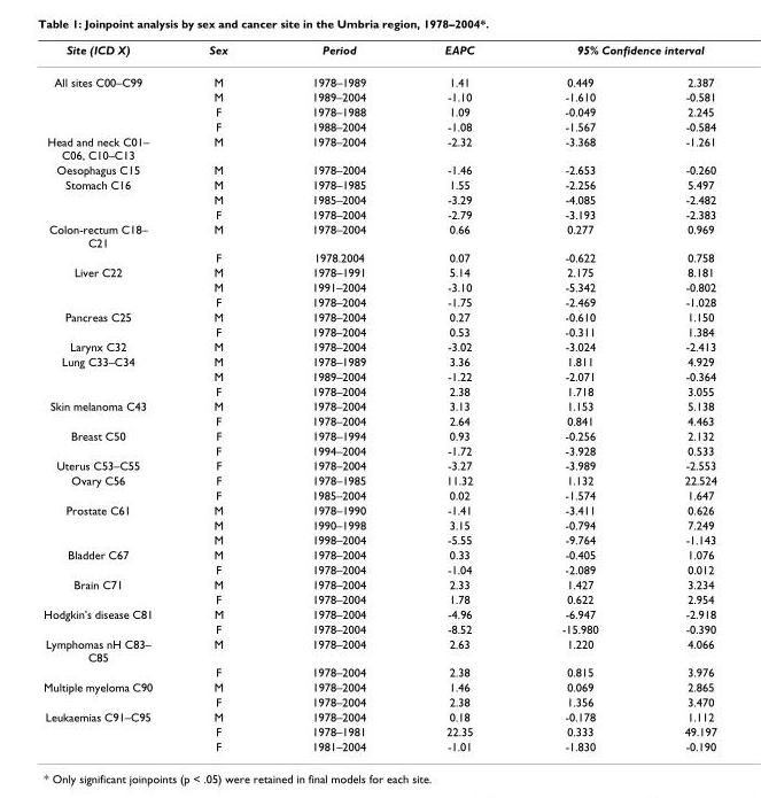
<table><thead><tr><td rowspan="2">Site (ICD X) All sites C00–C99</td><td rowspan="2">Sex M</td><td rowspan="2">Period 1978–1989</td><td rowspan="2">EAPC 1.41</td><td colspan="2">95% Confidence interval</td></tr><tr><td>0.449</td><td>2.387</td></tr></thead><tbody><tr><td></td><td>M</td><td>1989–2004</td><td>-1.10</td><td>-1.610</td><td>-0.581</td></tr><tr><td></td><td>F</td><td>1978–1988</td><td>1.09</td><td>-0.049</td><td>2.245</td></tr><tr><td></td><td>F</td><td>1988–2004</td><td>-1.08</td><td>-1.567</td><td>-0.584</td></tr><tr><td>Head and neck C01– C06, C10–C13</td><td>M</td><td>1978–2004</td><td>-2.32</td><td>-3.368</td><td>-1.261</td></tr><tr><td>Oesophagus C15</td><td>M</td><td>1978–2004</td><td>-1.46</td><td>-2.653</td><td>-0.260</td></tr><tr><td rowspan="3">Stomach C16</td><td>M</td><td>1978–1985</td><td>1.55</td><td>-2.256</td><td>5.497</td></tr><tr><td>M</td><td>1985–2004</td><td>-3.29</td><td>-4.085</td><td>-2.482</td></tr><tr><td>F</td><td>1978–2004</td><td>-2.79</td><td>-3.193</td><td>-2.383</td></tr><tr><td rowspan="2">Colon-rectum C18– C21</td><td>M</td><td>1978–2004</td><td>0.66</td><td>0.277</td><td>0.969</td></tr><tr><td>F</td><td>1978.2004</td><td>0.07</td><td>-0.622</td><td>0.758</td></tr><tr><td rowspan="3">Liver C22</td><td>M</td><td>1978–1991</td><td>5.14</td><td>2.175</td><td>8.181</td></tr><tr><td>M</td><td>1991–2004</td><td>-3.10</td><td>-5.342</td><td>-0.802</td></tr><tr><td>F</td><td>1978–2004</td><td>-1.75</td><td>-2.469</td><td>-1.028</td></tr><tr><td rowspan="2">Pancreas C25</td><td>M</td><td>1978–2004</td><td>0.27</td><td>-0.610</td><td>1.150</td></tr><tr><td>F</td><td>1978–2004</td><td>0.53</td><td>-0.311</td><td>1.384</td></tr><tr><td>Larynx C32</td><td>M</td><td>1978–2004</td><td>-3.02</td><td>-3.024</td><td>-2.413</td></tr><tr><td rowspan="3">Lung C33–C34</td><td>M</td><td>1978–1989</td><td>3.36</td><td>1.811</td><td>4.929</td></tr><tr><td>M</td><td>1989–2004</td><td>-1.22</td><td>-2.071</td><td>-0.364</td></tr><tr><td>F</td><td>1978–2004</td><td>2.38</td><td>1.718</td><td>3.055</td></tr><tr><td rowspan="2">Skin melanoma C43</td><td>M</td><td>1978–2004</td><td>3.13</td><td>1.153</td><td>5.138</td></tr><tr><td>F</td><td>1978–2004</td><td>2.64</td><td>0.841</td><td>4.463</td></tr><tr><td rowspan="2">Breast C50</td><td>F</td><td>1978–1994</td><td>0.93</td><td>-0.256</td><td>2.132</td></tr><tr><td>F</td><td>1994–2004</td><td>-1.72</td><td>-3.928</td><td>0.533</td></tr><tr><td>Uterus C53–C55</td><td>F</td><td>1978–2004</td><td>-3.27</td><td>-3.989</td><td>-2.553</td></tr><tr><td rowspan="2">Ovary C56</td><td>F</td><td>1978–1985</td><td>11.32</td><td>1.132</td><td>22.524</td></tr><tr><td>F</td><td>1985–2004</td><td>0.02</td><td>-1.574</td><td>1.647</td></tr><tr><td rowspan="3">Prostate C61</td><td>M</td><td>1978–1990</td><td>-1.41</td><td>-3.411</td><td>0.626</td></tr><tr><td>M</td><td>1990–1998</td><td>3.15</td><td>-0.794</td><td>7.249</td></tr><tr><td>M</td><td>1998–2004</td><td>-5.55</td><td>-9.764</td><td>-1.143</td></tr><tr><td rowspan="2">Bladder C67</td><td>M</td><td>1978–2004</td><td>0.33</td><td>-0.405</td><td>1.076</td></tr><tr><td>F</td><td>1978–2004</td><td>-1.04</td><td>-2.089</td><td>0.012</td></tr><tr><td rowspan="2">Brain C71</td><td>M</td><td>1978–2004</td><td>2.33</td><td>1.427</td><td>3.234</td></tr><tr><td>F</td><td>1978–2004</td><td>1.78</td><td>0.622</td><td>2.954</td></tr><tr><td rowspan="2">Hodgkin&#x27;s disease C81</td><td>M</td><td>1978–2004</td><td>-4.96</td><td>-6.947</td><td>-2.918</td></tr><tr><td>F</td><td>1978–2004</td><td>-8.52</td><td>-15.980</td><td>-0.390</td></tr><tr><td rowspan="2">Lymphomas nH C83– C85</td><td>M</td><td>1978–2004</td><td>2.63</td><td>1.220</td><td>4.066</td></tr><tr><td>F</td><td>1978–2004</td><td>2.38</td><td>0.815</td><td>3.976</td></tr><tr><td rowspan="2">Multiple myeloma C90</td><td>M</td><td>1978–2004</td><td>1.46</td><td>0.069</td><td>2.865</td></tr><tr><td>F</td><td>1978–2004</td><td>2.38</td><td>1.356</td><td>3.470</td></tr><tr><td rowspan="3">Leukaemias C91–C95</td><td>M</td><td>1978–2004</td><td>0.18</td><td>-0.178</td><td>1.112</td></tr><tr><td>F</td><td>1978–1981</td><td>22.35</td><td>0.333</td><td>49.197</td></tr><tr><td>F</td><td>1981–2004</td><td>-1.01</td><td>-1.830</td><td>-0.190</td></tr></tbody></table>